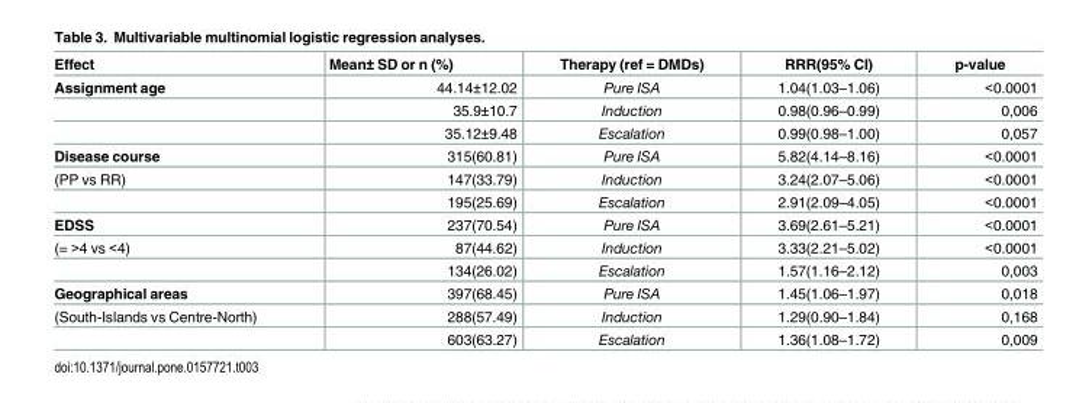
<table><thead><tr><td>Effect</td><td>Mean± SD or n (%)</td><td>Therapy (ref = DMDs)</td><td>RRR(95% CI)</td><td>p-value</td></tr></thead><tbody><tr><td rowspan="3">Assignment age</td><td>44.14±12.02</td><td>Pure ISA</td><td>1.04(1.03–1.06)</td><td>&lt;0.0001</td></tr><tr><td>35.9±10.7</td><td>Induction</td><td>0.98(0.96–0.99)</td><td>0,006</td></tr><tr><td>35.12±9.48</td><td>Escalation</td><td>0.99(0.98–1.00)</td><td>0,057</td></tr><tr><td>Disease course</td><td>315(60.81)</td><td>Pure ISA</td><td>5.82(4.14–8.16)</td><td>&lt;0.0001</td></tr><tr><td rowspan="2">(PP vs RR)</td><td>147(33.79)</td><td>Induction</td><td>3.24(2.07–5.06)</td><td>&lt;0.0001</td></tr><tr><td>195(25.69)</td><td>Escalation</td><td>2.91(2.09–4.05)</td><td>&lt;0.0001</td></tr><tr><td>EDSS</td><td>237(70.54)</td><td>Pure ISA</td><td>3.69(2.61–5.21)</td><td>&lt;0.0001</td></tr><tr><td rowspan="2">(= &gt;4 vs &lt;4)</td><td>87(44.62)</td><td>Induction</td><td>3.33(2.21–5.02)</td><td>&lt;0.0001</td></tr><tr><td>134(26.02)</td><td>Escalation</td><td>1.57(1.16–2.12)</td><td>0,003</td></tr><tr><td>Geographical areas</td><td>397(68.45)</td><td>Pure ISA</td><td>1.45(1.06–1.97)</td><td>0,018</td></tr><tr><td rowspan="2">(South-Islands vs Centre-North)</td><td>288(57.49)</td><td>Induction</td><td>1.29(0.90–1.84)</td><td>0,168</td></tr><tr><td>603(63.27)</td><td>Escalation</td><td>1.36(1.08–1.72)</td><td>0,009</td></tr></tbody></table>